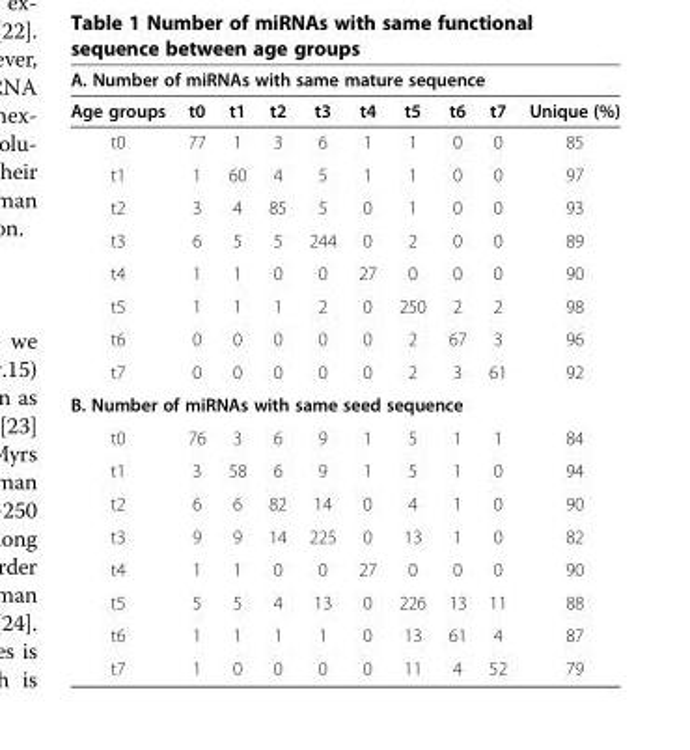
<table><thead><tr><td colspan="10">A. Number of miRNAs with same mature sequence</td></tr><tr><td>Age groups</td><td>t0</td><td>t1</td><td>t2</td><td>t3</td><td>t4</td><td>t5</td><td>t6</td><td>t7</td><td>Unique (%)</td></tr></thead><tbody><tr><td>t0</td><td>77</td><td>1</td><td>3</td><td>6</td><td>1</td><td>1</td><td>0</td><td>0</td><td>85</td></tr><tr><td>t1</td><td>1</td><td>60</td><td>4</td><td>5</td><td>1</td><td>1</td><td>0</td><td>0</td><td>97</td></tr><tr><td>t2</td><td>3</td><td>4</td><td>85</td><td>5</td><td>0</td><td>1</td><td>0</td><td>0</td><td>93</td></tr><tr><td>t3</td><td>6</td><td>5</td><td>5</td><td>244</td><td>0</td><td>2</td><td>0</td><td>0</td><td>89</td></tr><tr><td>t4</td><td>1</td><td>1</td><td>0</td><td>0</td><td>27</td><td>0</td><td>0</td><td>0</td><td>90</td></tr><tr><td>t5</td><td>1</td><td>1</td><td>1</td><td>2</td><td>0</td><td>250</td><td>2</td><td>2</td><td>98</td></tr><tr><td>t6</td><td>0</td><td>0</td><td>0</td><td>0</td><td>0</td><td>2</td><td>67</td><td>3</td><td>96</td></tr><tr><td>t7</td><td>0</td><td>0</td><td>0</td><td>0</td><td>0</td><td>2</td><td>3</td><td>61</td><td>92</td></tr><tr><td colspan="10">B. Number of miRNAs with same seed sequence</td></tr><tr><td>t0</td><td>76</td><td>3</td><td>6</td><td>9</td><td>1</td><td>5</td><td>1</td><td>1</td><td>84</td></tr><tr><td>t1</td><td>3</td><td>58</td><td>6</td><td>9</td><td>1</td><td>5</td><td>1</td><td>0</td><td>94</td></tr><tr><td>t2</td><td>6</td><td>6</td><td>82</td><td>14</td><td>0</td><td>4</td><td>1</td><td>0</td><td>90</td></tr><tr><td>t3</td><td>9</td><td>9</td><td>14</td><td>225</td><td>0</td><td>13</td><td>1</td><td>0</td><td>82</td></tr><tr><td>t4</td><td>1</td><td>1</td><td>0</td><td>0</td><td>27</td><td>0</td><td>0</td><td>0</td><td>90</td></tr><tr><td>t5</td><td>5</td><td>5</td><td>4</td><td>13</td><td>0</td><td>226</td><td>13</td><td>11</td><td>88</td></tr><tr><td>t6</td><td>1</td><td>1</td><td>1</td><td>1</td><td>0</td><td>13</td><td>61</td><td>4</td><td>87</td></tr><tr><td>t7</td><td>1</td><td>0</td><td>0</td><td>0</td><td>0</td><td>11</td><td>4</td><td>52</td><td>79</td></tr></tbody></table>